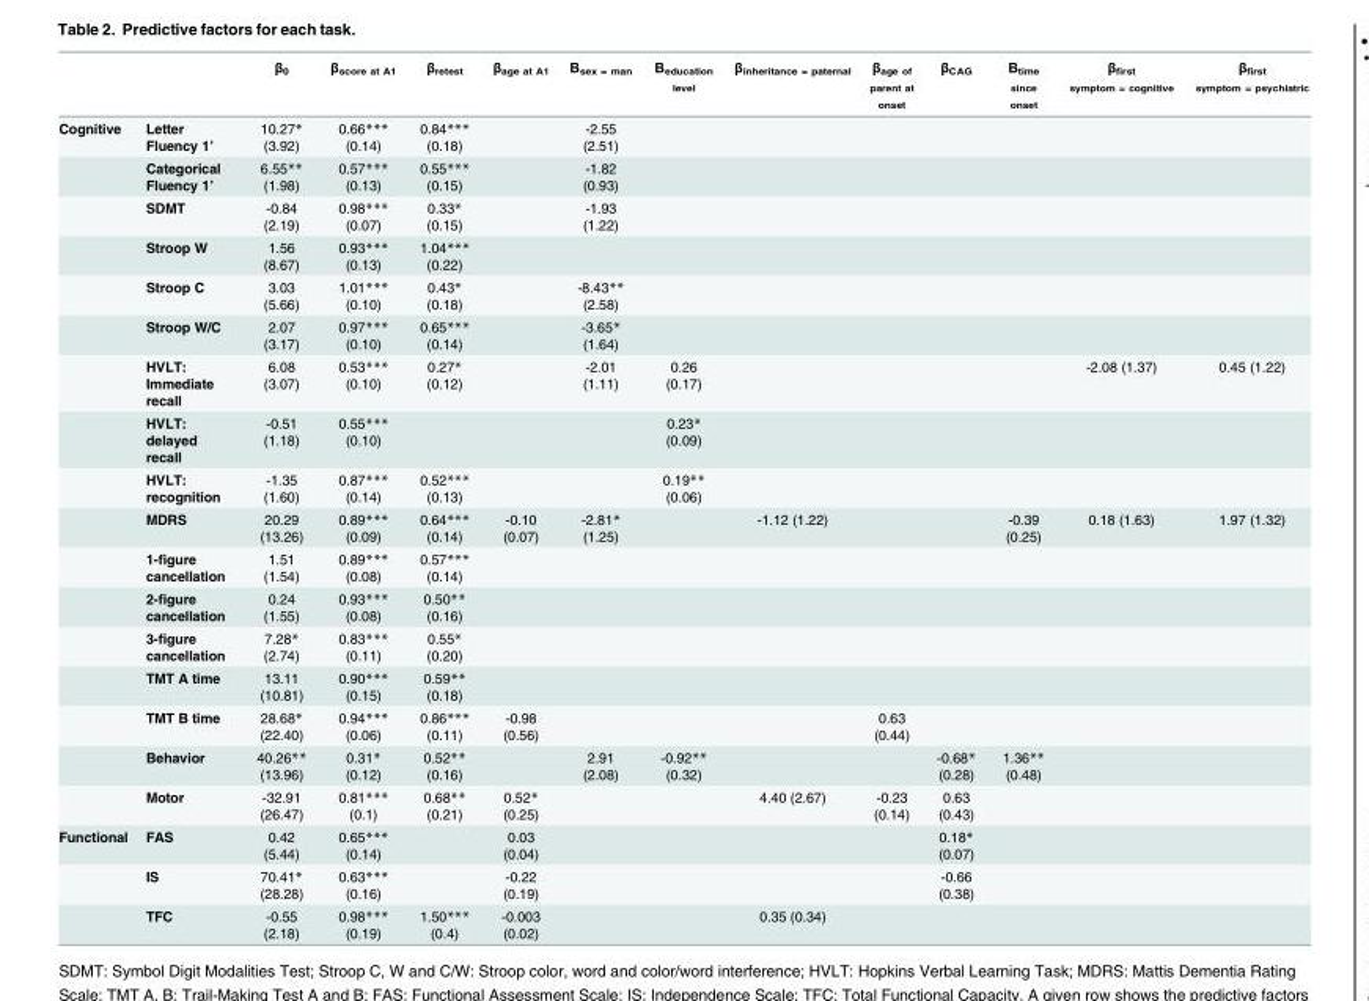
<table><thead><tr><td></td><td></td><td>β<sub>0</sub></td><td>β<sub>score at A1</sub></td><td>β<sub>retest</sub></td><td>β<sub>age at A1</sub></td><td>Β<sub>sex = man</sub></td><td>Β<sub>education level</sub></td><td>β<sub>inheritance = paternal</sub></td><td>β<sub>age of parent at onset</sub></td><td>β<sub>CAG</sub></td><td>Β<sub>time since onset</sub></td><td>β<sub>first symptom = cognitive</sub></td><td>β<sub>first symptom = psychiatric</sub></td></tr></thead><tbody><tr><td rowspan="17">Cognitive</td><td>Letter Fluency 1’</td><td>10.27* (3.92)</td><td>0.66*** (0.14)</td><td>0.84*** (0.18)</td><td></td><td>-2.55 (2.51)</td><td></td><td></td><td></td><td></td><td></td><td></td><td></td></tr><tr><td>Categorical Fluency 1’</td><td>6.55** (1.98)</td><td>0.57*** (0.13)</td><td>0.55*** (0.15)</td><td></td><td>-1.82 (0.93)</td><td></td><td></td><td></td><td></td><td></td><td></td><td></td></tr><tr><td>SDMT</td><td>-0.84 (2.19)</td><td>0.98*** (0.07)</td><td>0.33* (0.15)</td><td></td><td>-1.93 (1.22)</td><td></td><td></td><td></td><td></td><td></td><td></td><td></td></tr><tr><td>Stroop W</td><td>1.56 (8.67)</td><td>0.93*** (0.13)</td><td>1.04*** (0.22)</td><td></td><td></td><td></td><td></td><td></td><td></td><td></td><td></td><td></td></tr><tr><td>Stroop C</td><td>3.03 (5.66)</td><td>1.01*** (0.10)</td><td>0.43* (0.18)</td><td></td><td>-8.43** (2.58)</td><td></td><td></td><td></td><td></td><td></td><td></td><td></td></tr><tr><td>Stroop W/C</td><td>2.07 (3.17)</td><td>0.97*** (0.10)</td><td>0.65*** (0.14)</td><td></td><td>-3.65* (1.64)</td><td></td><td></td><td></td><td></td><td></td><td></td><td></td></tr><tr><td>HVLT: Immediate recall</td><td>6.08 (3.07)</td><td>0.53*** (0.10)</td><td>0.27* (0.12)</td><td></td><td>-2.01 (1.11)</td><td>0.26 (0.17)</td><td></td><td></td><td></td><td></td><td>-2.08 (1.37)</td><td>0.45 (1.22)</td></tr><tr><td>HVLT: delayed recall</td><td>-0.51 (1.18)</td><td>0.55*** (0.10)</td><td></td><td></td><td></td><td>0.23* (0.09)</td><td></td><td></td><td></td><td></td><td></td><td></td></tr><tr><td>HVLT: recognition</td><td>-1.35 (1.60)</td><td>0.87*** (0.14)</td><td>0.52*** (0.13)</td><td></td><td></td><td>0.19** (0.06)</td><td></td><td></td><td></td><td></td><td></td><td></td></tr><tr><td>MDRS</td><td>20.29 (13.26)</td><td>0.89*** (0.09)</td><td>0.64*** (0.14)</td><td>-0.10 (0.07)</td><td>-2.81* (1.25)</td><td></td><td>-1.12 (1.22)</td><td></td><td></td><td>-0.39 (0.25)</td><td>0.18 (1.63)</td><td>1.97 (1.32)</td></tr><tr><td>1-figure cancellation</td><td>1.51 (1.54)</td><td>0.89*** (0.08)</td><td>0.57*** (0.14)</td><td></td><td></td><td></td><td></td><td></td><td></td><td></td><td></td><td></td></tr><tr><td>2-figure cancellation</td><td>0.24 (1.55)</td><td>0.93*** (0.08)</td><td>0.50** (0.16)</td><td></td><td></td><td></td><td></td><td></td><td></td><td></td><td></td><td></td></tr><tr><td>3-figure cancellation</td><td>7.28* (2.74)</td><td>0.83*** (0.11)</td><td>0.55* (0.20)</td><td></td><td></td><td></td><td></td><td></td><td></td><td></td><td></td><td></td></tr><tr><td>TMT A time</td><td>13.11 (10.81)</td><td>0.90*** (0.15)</td><td>0.59** (0.18)</td><td></td><td></td><td></td><td></td><td></td><td></td><td></td><td></td><td></td></tr><tr><td>TMT B time</td><td>28.68* (22.40)</td><td>0.94*** (0.06)</td><td>0.86*** (0.11)</td><td>-0.98 (0.56)</td><td></td><td></td><td></td><td>0.63 (0.44)</td><td></td><td></td><td></td><td></td></tr><tr><td>Behavior</td><td>40.26** (13.96)</td><td>0.31* (0.12)</td><td>0.52** (0.16)</td><td></td><td>2.91 (2.08)</td><td>-0.92** (0.32)</td><td></td><td></td><td>-0.68* (0.28)</td><td>1.36** (0.48)</td><td></td><td></td></tr><tr><td>Motor</td><td>-32.91 (26.47)</td><td>0.81*** (0.1)</td><td>0.68** (0.21)</td><td>0.52* (0.25)</td><td></td><td></td><td>4.40 (2.67)</td><td>-0.23 (0.14)</td><td>0.63 (0.43)</td><td></td><td></td><td></td></tr><tr><td rowspan="3">Functional</td><td>FAS</td><td>0.42 (5.44)</td><td>0.65*** (0.14)</td><td></td><td>0.03 (0.04)</td><td></td><td></td><td></td><td></td><td>0.18* (0.07)</td><td></td><td></td><td></td></tr><tr><td>IS</td><td>70.41* (28.28)</td><td>0.63*** (0.16)</td><td></td><td>-0.22 (0.19)</td><td></td><td></td><td></td><td></td><td>-0.66 (0.38)</td><td></td><td></td><td></td></tr><tr><td>TFC</td><td>-0.55 (2.18)</td><td>0.98*** (0.19)</td><td>1.50*** (0.4)</td><td>-0.003 (0.02)</td><td></td><td></td><td>0.35 (0.34)</td><td></td><td></td><td></td><td></td><td></td></tr></tbody></table>